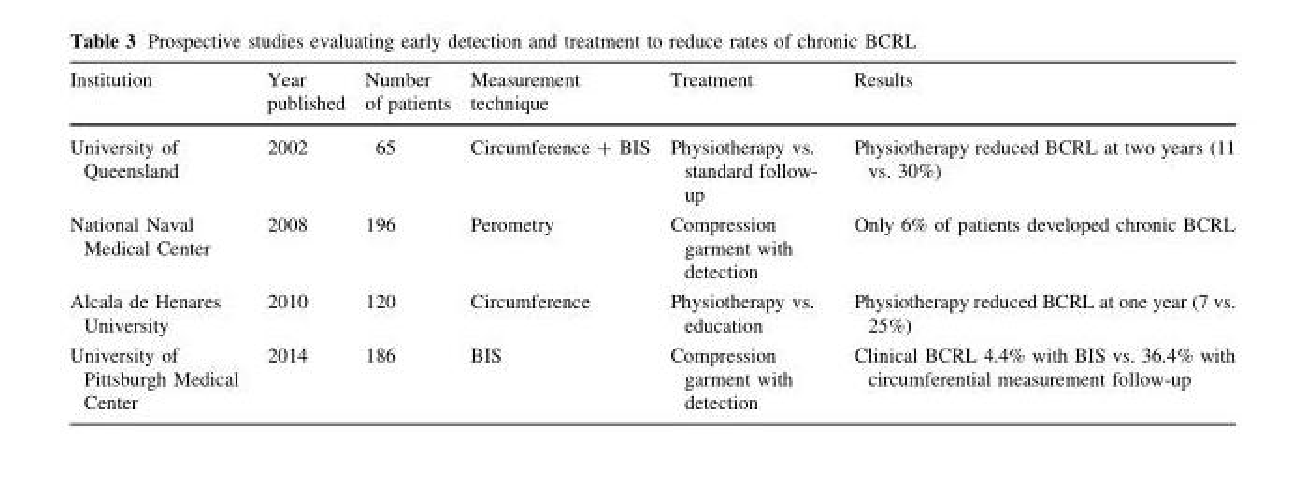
<table><thead><tr><td>Institution</td><td>Year published</td><td>Number of patients</td><td>Measurement technique</td><td>Treatment</td><td>Results</td></tr></thead><tbody><tr><td>University of Queensland</td><td>2002</td><td>65</td><td>Circumference + BIS</td><td>Physiotherapy vs. standard follow- up</td><td>Physiotherapy reduced BCRL at two years (11 vs. 30%)</td></tr><tr><td>National Naval Medical Center</td><td>2008</td><td>196</td><td>Perometry</td><td>Compression garment with detection</td><td>Only 6% of patients developed chronic BCRL</td></tr><tr><td>Alcala de Henares University</td><td>2010</td><td>120</td><td>Circumference</td><td>Physiotherapy vs. education</td><td>Physiotherapy reduced BCRL at one year (7 vs. 25%)</td></tr><tr><td>University of Pittsburgh Medical Center</td><td>2014</td><td>186</td><td>BIS</td><td>Compression garment with detection</td><td>Clinical BCRL 4.4% with BIS vs. 36.4% with circumferential measurement follow-up</td></tr></tbody></table>